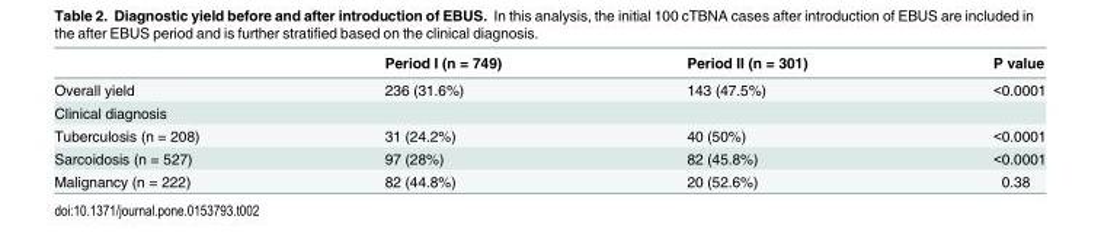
<table><thead><tr><td></td><td>Period I (n = 749)</td><td>Period II (n = 301)</td><td>P value</td></tr></thead><tbody><tr><td>Overall yield</td><td>236 (31.6%)</td><td>143 (47.5%)</td><td>&lt;0.0001</td></tr><tr><td colspan="4">Clinical diagnosis</td></tr><tr><td>Tuberculosis (n = 208)</td><td>31 (24.2%)</td><td>40 (50%)</td><td>&lt;0.0001</td></tr><tr><td>Sarcoidosis (n = 527)</td><td>97 (28%)</td><td>82 (45.8%)</td><td>&lt;0.0001</td></tr><tr><td>Malignancy (n = 222)</td><td>82 (44.8%)</td><td>20 (52.6%)</td><td>0.38</td></tr></tbody></table>